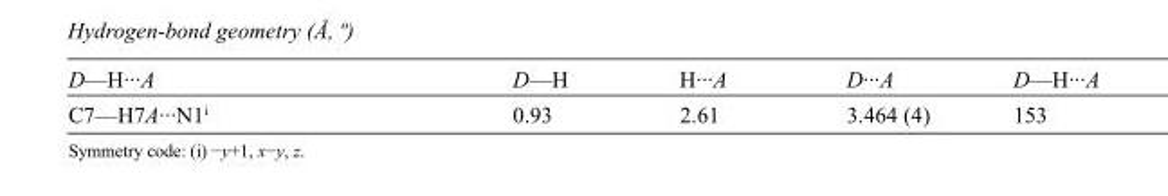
<table><tbody><tr><td>D—H···A</td><td>D—H</td><td>H···A</td><td>D···A</td><td>D—H···A</td></tr><tr><td>C7—H7A···N1<sup>i</sup></td><td>0.93</td><td>2.61</td><td>3.464 (4)</td><td>153</td></tr></tbody></table>